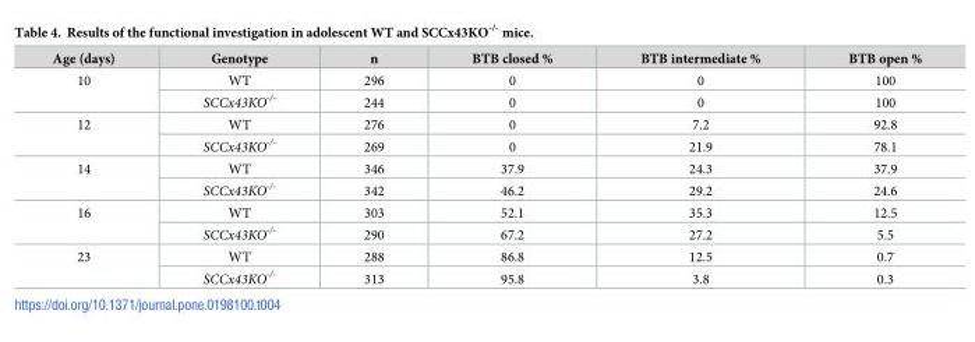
<table><thead><tr><td>Age (days)</td><td>Genotype</td><td>n</td><td>BTB closed %</td><td>BTB intermediate %</td><td>BTB open %</td></tr></thead><tbody><tr><td rowspan="2">10</td><td>WT</td><td>296</td><td>0</td><td>0</td><td>100</td></tr><tr><td>SCCx43KO<sup>-/-</sup></td><td>244</td><td>0</td><td>0</td><td>100</td></tr><tr><td rowspan="2">12</td><td>WT</td><td>276</td><td>0</td><td>7.2</td><td>92.8</td></tr><tr><td>SCCx43KO<sup>-/-</sup></td><td>269</td><td>0</td><td>21.9</td><td>78.1</td></tr><tr><td rowspan="2">14</td><td>WT</td><td>346</td><td>37.9</td><td>24.3</td><td>37.9</td></tr><tr><td>SCCx43KO<sup>-/-</sup></td><td>342</td><td>46.2</td><td>29.2</td><td>24.6</td></tr><tr><td rowspan="2">16</td><td>WT</td><td>303</td><td>52.1</td><td>35.3</td><td>12.5</td></tr><tr><td>SCCx43KO<sup>-/-</sup></td><td>290</td><td>67.2</td><td>27.2</td><td>5.5</td></tr><tr><td rowspan="2">23</td><td>WT</td><td>288</td><td>86.8</td><td>12.5</td><td>0.7</td></tr><tr><td>SCCx43KO<sup>-/-</sup></td><td>313</td><td>95.8</td><td>3.8</td><td>0.3</td></tr></tbody></table>